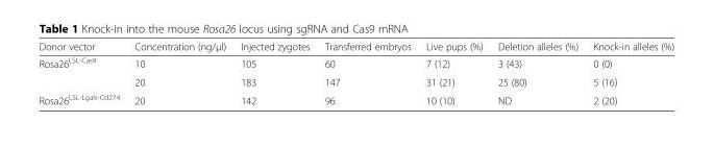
<table><thead><tr><td>Donor vector</td><td>Concentration (ng/μl)</td><td>Injected zygotes</td><td>Transferred embryos</td><td>Live pups (%)</td><td>Deletion alleles (%)</td><td>Knock-in alleles (%)</td></tr></thead><tbody><tr><td rowspan="2">Rosa26<sup>LSL-Cas9</sup></td><td>10</td><td>105</td><td>60</td><td>7 (12)</td><td>3 (43)</td><td>0 (0)</td></tr><tr><td>20</td><td>183</td><td>147</td><td>31 (21)</td><td>25 (80)</td><td>5 (16)</td></tr><tr><td>Rosa26<sup>LSL-Lgals-Cd274</sup></td><td>20</td><td>142</td><td>96</td><td>10 (10)</td><td>ND</td><td>2 (20)</td></tr></tbody></table>